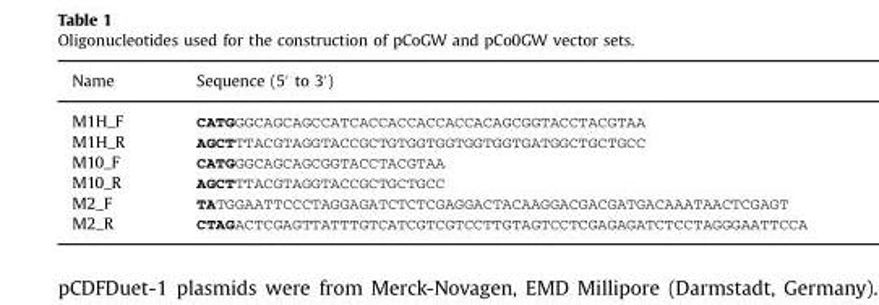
<table><thead><tr><td>Name</td><td>Sequence (5′ to 3′)</td></tr></thead><tbody><tr><td>M1H_F</td><td>CATGGGCAGCAGCCATCACCACCACCACCACAGCGGTACCTACGTAA</td></tr><tr><td>M1H_R</td><td>AGCTTTACGTAGGTACCGCTGTGGTGGTGGTGGTGATGGCTGCTGCC</td></tr><tr><td>M10_F</td><td>CATGGGCAGCAGCGGTACCTACGTAA</td></tr><tr><td>M10_R</td><td>AGCTTTACGTAGGTACCGCTGCTGCC</td></tr><tr><td>M2_F</td><td>TATGGAATTCCCTAGGAGATCTCTCGAGGACTACAAGGACGACGATGACAAATAACTCGAGT</td></tr><tr><td>M2_R</td><td>CTAGACTCGAGTTATTTGTCATCGTCGTCCTTGTAGTCCTCGAGAGATCTCCTAGGGAATTCCA</td></tr></tbody></table>